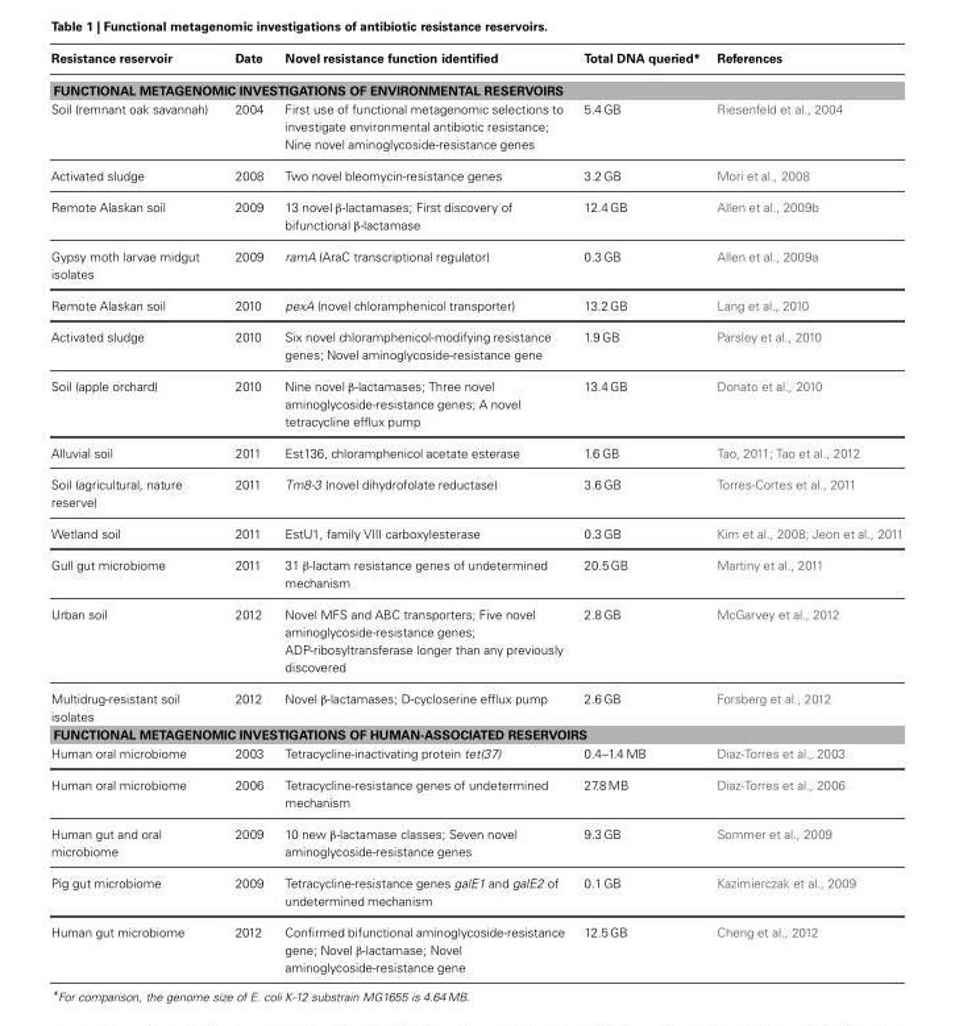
<table><thead><tr><td>Resistance reservoir</td><td>Date</td><td>Novel resistance function identified</td><td>Total DNA queried*</td><td>References</td></tr></thead><tbody><tr><td colspan="5">FUNCTIONAL METAGENOMIC INVESTIGATIONS OF ENVIRONMENTAL RESERVOIRS</td></tr><tr><td>Soil (remnant oak savannah)</td><td>2004</td><td>First use of functional metagenomic selections to investigate environmental antibiotic resistance; Nine novel aminoglycoside-resistance genes</td><td>5.4 GB</td><td>Riesenfeld et al., 2004</td></tr><tr><td>Activated sludge</td><td>2008</td><td>Two novel bleomycin-resistance genes</td><td>3.2 GB</td><td>Mori et al., 2008</td></tr><tr><td>Remote Alaskan soil</td><td>2009</td><td>13 novel β-lactamases; First discovery of bifunctional β-lactamase</td><td>12.4 GB</td><td>Allen et al., 2009b</td></tr><tr><td>Gypsy moth larvae midgut isolates</td><td>2009</td><td>ramA (AraC transcriptional regulator)</td><td>0.3 GB</td><td>Allen et al., 2009a</td></tr><tr><td>Remote Alaskan soil</td><td>2010</td><td>pexA (novel chloramphenicol transporter)</td><td>13.2 GB</td><td>Lang et al., 2010</td></tr><tr><td>Activated sludge</td><td>2010</td><td>Six novel chloramphenicol-modifying resistance genes; Novel aminoglycoside-resistance gene</td><td>1.9 GB</td><td>Parsley et al., 2010</td></tr><tr><td>Soil (apple orchard)</td><td>2010</td><td>Nine novel β-lactamases; Three novel aminoglycoside-resistance genes; A novel tetracycline efflux pump</td><td>13.4 GB</td><td>Donato et al., 2010</td></tr><tr><td>Alluvial soil</td><td>2011</td><td>Est136, chloramphenicol acetate esterase</td><td>1.6 GB</td><td>Tao, 2011; Tao et al., 2012</td></tr><tr><td>Soil (agricultural, nature reserve)</td><td>2011</td><td>Tm8-3 (novel dihydrofolate reductase)</td><td>3.6 GB</td><td>Torres-Cortes et al., 2011</td></tr><tr><td>Wetland soil</td><td>2011</td><td>EstU1, family VIII carboxylesterase</td><td>0.3 GB</td><td>Kim et al., 2008; Jeon et al., 2011</td></tr><tr><td>Gull gut microbiome</td><td>2011</td><td>31 β-lactam resistance genes of undetermined mechanism</td><td>20.5 GB</td><td>Martiny et al., 2011</td></tr><tr><td>Urban soil</td><td>2012</td><td>Novel MFS and ABC transporters; Five novel aminoglycoside-resistance genes; ADP-ribosyltransferase longer than any previously discovered</td><td>2.8 GB</td><td>McGarvey et al., 2012</td></tr><tr><td>Multidrug-resistant soil isolates</td><td>2012</td><td>Novel β-lactamases; D-cycloserine efflux pump</td><td>2.6 GB</td><td>Forsberg et al., 2012</td></tr><tr><td colspan="5">FUNCTIONAL METAGENOMIC INVESTIGATIONS OF HUMAN-ASSOCIATED RESERVOIRS</td></tr><tr><td>Human oral microbiome</td><td>2003</td><td>Tetracycline-inactivating protein tet(37)</td><td>0.4–1.4 MB</td><td>Diaz-Torres et al., 2003</td></tr><tr><td>Human oral microbiome</td><td>2006</td><td>Tetracycline-resistance genes of undetermined mechanism</td><td>27.8 MB</td><td>Diaz-Torres et al., 2006</td></tr><tr><td>Human gut and oral microbiome</td><td>2009</td><td>10 new β-lactamase classes; Seven novel aminoglycoside-resistance genes</td><td>9.3 GB</td><td>Sommer et al., 2009</td></tr><tr><td>Pig gut microbiome</td><td>2009</td><td>Tetracycline-resistance genes galE1 and galE2 of undetermined mechanism</td><td>0.1 GB</td><td>Kazimierczak et al., 2009</td></tr><tr><td>Human gut microbiome</td><td>2012</td><td>Confirmed bifunctional aminoglycoside-resistance gene; Novel β-lactamase; Novel aminoglycoside-resistance gene</td><td>12.5 GB</td><td>Cheng et al., 2012</td></tr></tbody></table>